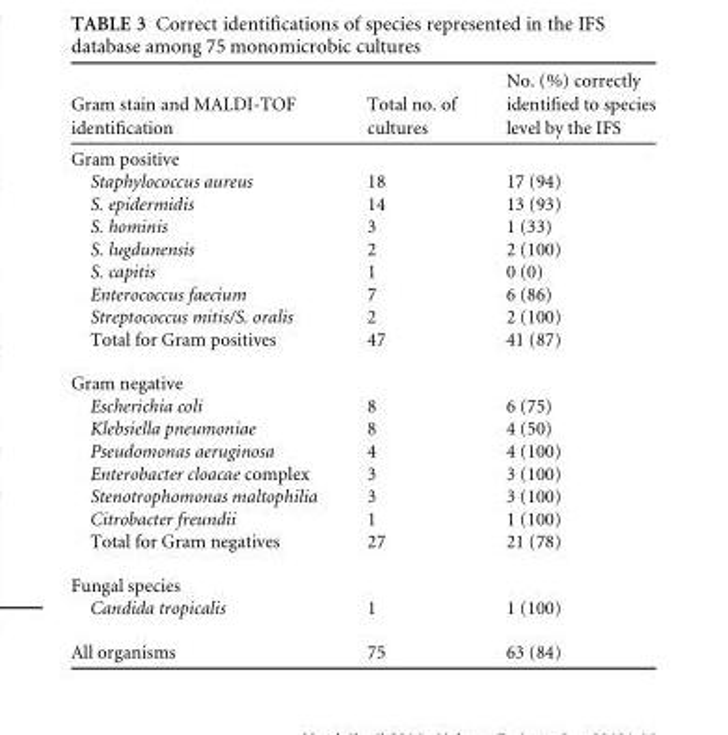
<table><thead><tr><td>Gram stain and MALDI-TOF identification</td><td>Total no. of cultures</td><td>No. (%) correctly identified to species level by the IFS</td></tr></thead><tbody><tr><td colspan="3">Gram positive</td></tr><tr><td>Staphylococcus aureus</td><td>18</td><td>17 (94)</td></tr><tr><td>S. epidermidis</td><td>14</td><td>13 (93)</td></tr><tr><td>S. hominis</td><td>3</td><td>1 (33)</td></tr><tr><td>S. lugdunensis</td><td>2</td><td>2 (100)</td></tr><tr><td>S. capitis</td><td>1</td><td>0 (0)</td></tr><tr><td>Enterococcus faecium</td><td>7</td><td>6 (86)</td></tr><tr><td>Streptococcus mitis/S. oralis</td><td>2</td><td>2 (100)</td></tr><tr><td>Total for Gram positives</td><td>47</td><td>41 (87)</td></tr><tr><td colspan="3">Gram negative</td></tr><tr><td>Escherichia coli</td><td>8</td><td>6 (75)</td></tr><tr><td>Klebsiella pneumoniae</td><td>8</td><td>4 (50)</td></tr><tr><td>Pseudomonas aeruginosa</td><td>4</td><td>4 (100)</td></tr><tr><td>Enterobacter cloacae complex</td><td>3</td><td>3 (100)</td></tr><tr><td>Stenotrophomonas maltophilia</td><td>3</td><td>3 (100)</td></tr><tr><td>Citrobacter freundii</td><td>1</td><td>1 (100)</td></tr><tr><td>Total for Gram negatives</td><td>27</td><td>21 (78)</td></tr><tr><td colspan="3">Fungal species</td></tr><tr><td>Candida tropicalis</td><td>1</td><td>1 (100)</td></tr><tr><td>All organisms</td><td>75</td><td>63 (84)</td></tr></tbody></table>